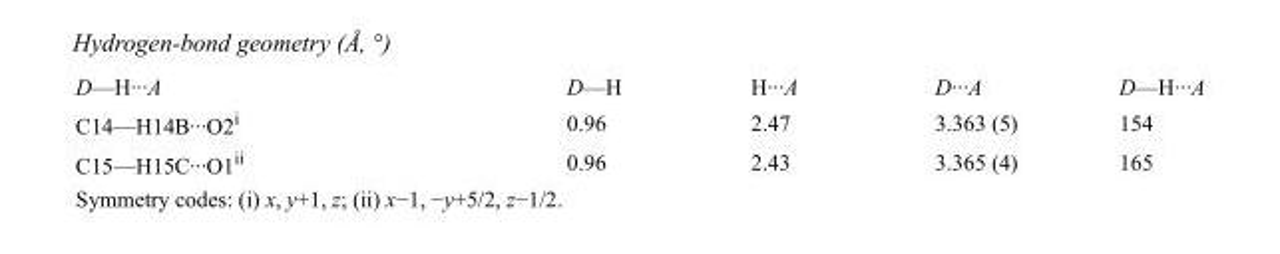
<table><tbody><tr><td>D—H···A</td><td>D—H</td><td>H···A</td><td>D···A</td><td>D—H···A</td></tr><tr><td>C14—H14B···O2<sup>i</sup></td><td>0.96</td><td>2.47</td><td>3.363 (5)</td><td>154</td></tr><tr><td>C15—H15C···O1<sup>ii</sup></td><td>0.96</td><td>2.43</td><td>3.365 (4)</td><td>165</td></tr></tbody></table>